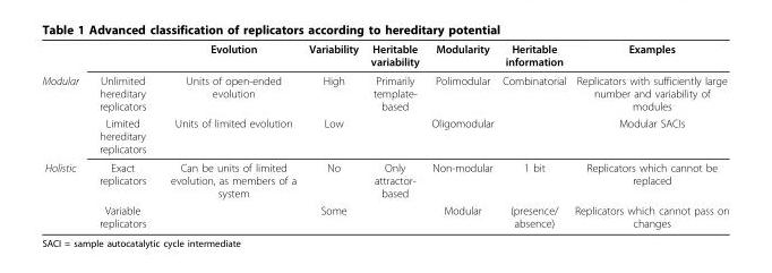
<table><thead><tr><td></td><td></td><td>Evolution</td><td>Variability</td><td>Heritable variability</td><td>Modularity</td><td>Heritable information</td><td>Examples</td></tr></thead><tbody><tr><td rowspan="2">Modular</td><td>Unlimited hereditary replicators</td><td>Units of open-ended evolution</td><td>High</td><td>Primarily template- based</td><td>Polimodular</td><td>Combinatorial</td><td>Replicators with sufficiently large number and variability of modules</td></tr><tr><td>Limited hereditary replicators</td><td>Units of limited evolution</td><td>Low</td><td></td><td>Oligomodular</td><td></td><td>Modular SACIs</td></tr><tr><td rowspan="2">Holistic</td><td>Exact replicators</td><td>Can be units of limited evolution, as members of a system</td><td>No</td><td>Only attractor- based</td><td>Non-modular</td><td>1 bit</td><td>Replicators which cannot be replaced</td></tr><tr><td>Variable replicators</td><td></td><td>Some</td><td></td><td>Modular</td><td>(presence/ absence)</td><td>Replicators which cannot pass on changes</td></tr></tbody></table>